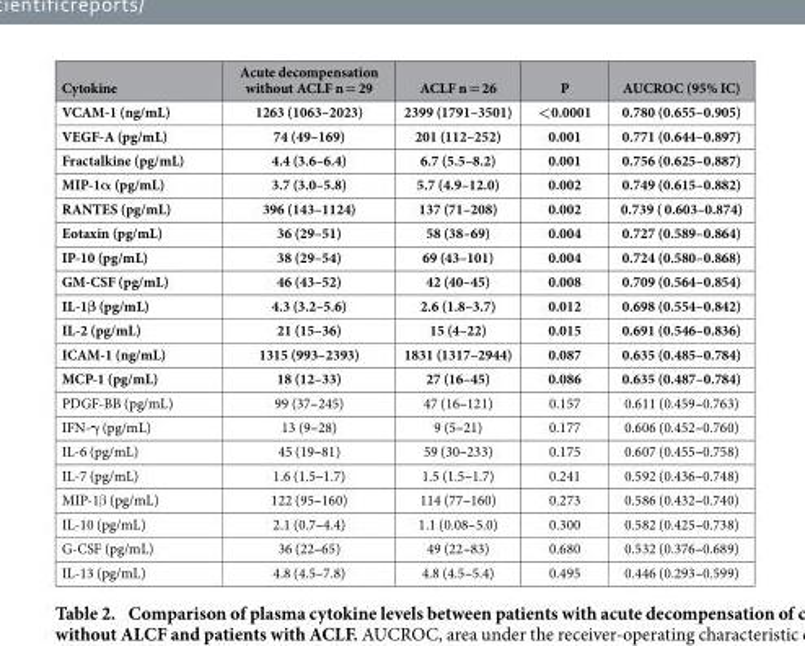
<table><thead><tr><td>Cytokine</td><td>Acute decompensation without ACLF n = 29</td><td>ACLF n = 26</td><td>P</td><td>AUCROC (95% IC)</td></tr></thead><tbody><tr><td>VCAM-1 (ng/mL)</td><td>1263 (1063–2023)</td><td>2399 (1791–3501)</td><td>&lt;0.0001</td><td>0.780 (0.655–0.905)</td></tr><tr><td>VEGF-A (pg/mL)</td><td>74 (49–169)</td><td>201 (112–252)</td><td>0.001</td><td>0.771 (0.644–0.897)</td></tr><tr><td>Fractalkine (pg/mL)</td><td>4.4 (3.6–6.4)</td><td>6.7 (5.5–8.2)</td><td>0.001</td><td>0.756 (0.625–0.887)</td></tr><tr><td>MIP-1α (pg/mL)</td><td>3.7 (3.0–5.8)</td><td>5.7 (4.9–12.0)</td><td>0.002</td><td>0.749 (0.615–0.882)</td></tr><tr><td>RANTES (pg/mL)</td><td>396 (143–1124)</td><td>137 (71–208)</td><td>0.002</td><td>0.739 ( 0.603–0.874)</td></tr><tr><td>Eotaxin (pg/mL)</td><td>36 (29–51)</td><td>58 (38–69)</td><td>0.004</td><td>0.727 (0.589–0.864)</td></tr><tr><td>IP-10 (pg/mL)</td><td>38 (29–54)</td><td>69 (43–101)</td><td>0.004</td><td>0.724 (0.580–0.868)</td></tr><tr><td>GM-CSF (pg/mL)</td><td>46 (43–52)</td><td>42 (40–45)</td><td>0.008</td><td>0.709 (0.564–0.854)</td></tr><tr><td>IL-1β (pg/mL)</td><td>4.3 (3.2–5.6)</td><td>2.6 (1.8–3.7)</td><td>0.012</td><td>0.698 (0.554–0.842)</td></tr><tr><td>IL-2 (pg/mL)</td><td>21 (15–36)</td><td>15 (4–22)</td><td>0.015</td><td>0.691 (0.546–0.836)</td></tr><tr><td>ICAM-1 (ng/mL)</td><td>1315 (993–2393)</td><td>1831 (1317–2944)</td><td>0.087</td><td>0.635 (0.485–0.784)</td></tr><tr><td>MCP-1 (pg/mL)</td><td>18 (12–33)</td><td>27 (16–45)</td><td>0.086</td><td>0.635 (0.487–0.784)</td></tr><tr><td>PDGF-BB (pg/mL)</td><td>99 (37–245)</td><td>47 (16–121)</td><td>0.157</td><td>0.611 (0.459–0.763)</td></tr><tr><td>IFN-γ (pg/mL)</td><td>13 (9–28)</td><td>9 (5–21)</td><td>0.177</td><td>0.606 (0.452–0.760)</td></tr><tr><td>IL-6 (pg/mL)</td><td>45 (19–81)</td><td>59 (30–233)</td><td>0.175</td><td>0.607 (0.455–0.758)</td></tr><tr><td>IL-7 (pg/mL)</td><td>1.6 (1.5–1.7)</td><td>1.5 (1.5–1.7)</td><td>0.241</td><td>0.592 (0.436–0.748)</td></tr><tr><td>MIP-1β (pg/mL)</td><td>122 (95–160)</td><td>114 (77–160)</td><td>0.273</td><td>0.586 (0.432–0.740)</td></tr><tr><td>IL-10 (pg/mL)</td><td>2.1 (0.7–4.4)</td><td>1.1 (0.08–5.0)</td><td>0.300</td><td>0.582 (0.425–0.738)</td></tr><tr><td>G-CSF (pg/mL)</td><td>36 (22–65)</td><td>49 (22–83)</td><td>0.680</td><td>0.532 (0.376–0.689)</td></tr><tr><td>IL-13 (pg/mL)</td><td>4.8 (4.5–7.8)</td><td>4.8 (4.5–5.4)</td><td>0.495</td><td>0.446 (0.293–0.599)</td></tr></tbody></table>